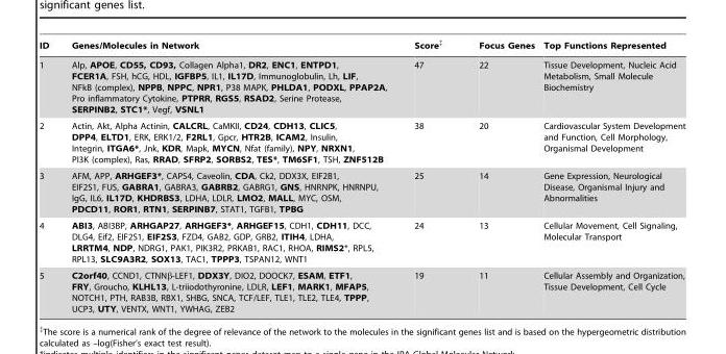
<table><thead><tr><td>ID</td><td>Genes/Molecules in Network</td><td>Score‡</td><td>Focus Genes</td><td>Top Functions Represented</td></tr></thead><tbody><tr><td>1</td><td>Alp, APOE, CD55, CD93, Collagen Alpha1, DR2, ENC1, ENTPD1, FCER1A, FSH, hCG, HDL, IGFBP5, IL1, IL17D, Immunoglobulin, Lh, LIF, NFkB (complex), NPPB, NPPC, NPR1, P38 MAPK, PHLDA1, PODXL, PPAP2A, Pro inflammatory Cytokine, PTPRR, RGS5, RSAD2, Serine Protease, SERPINB2, STC1*, Vegf, VSNL1</td><td>47</td><td>22</td><td>Tissue Development, Nucleic Acid Metabolism, Small Molecule Biochemistry</td></tr><tr><td>2</td><td>Actin, Akt, Alpha Actinin, CALCRL, CaMKII, CD24, CDH13, CLIC5, DPP4, ELTD1, ERK, ERK1/2, F2RL1, Gpcr, HTR2B, ICAM2, Insulin, Integrin, ITGA6*, Jnk, KDR, Mapk, MYCN, Nfat (family), NPY, NRXN1, PI3K (complex), Ras, RRAD, SFRP2, SORBS2, TES*, TM6SF1, TSH, ZNF512B</td><td>38</td><td>20</td><td>Cardiovascular System Development and Function, Cell Morphology, Organismal Development</td></tr><tr><td>3</td><td>AFM, APP, ARHGEF3*, CAPS4, Caveolin, CDA, Ck2, DDX3X, EIF2B1, EIF2S1, FUS, GABRA1, GABRA3, GABRB2, GABRG1, GNS, HNRNPK, HNRNPU, IgG, IL6, IL17D, KHDRBS3, LDHA, LDLR, LMO2, MALL, MYC, OSM, PDCD11, ROR1, RTN1, SERPINB7, STAT1, TGFB1, TPBG</td><td>25</td><td>14</td><td>Gene Expression, Neurological Disease, Organismal Injury and Abnormalities</td></tr><tr><td>4</td><td>ABI3, ABI3BP, ARHGAP27, ARHGEF3*, ARHGEF15, CDH1, CDH11, DCC, DLG4, Eif2, EIF2S1, EIF2S3, FZD4, GAB2, GDP, GRB2, ITIH4, LDHA, LRRTM4, NDP, NDRG1, PAK1, PIK3R2, PRKAB1, RAC1, RHOA, RIMS2*, RPL5, RPL13, SLC9A3R2, SOX13, TAC1, TPPP3, TSPAN12, WNT1</td><td>24</td><td>13</td><td>Cellular Movement, Cell Signaling, Molecular Transport</td></tr><tr><td>5</td><td>C2orf40, CCND1, CTNNβ-LEF1, DDX3Y, DIO2, DOOCK7, ESAM, ETF1, FRY, Groucho, KLHL13, L-triiodothyronine, LDLR, LEF1, MARK1, MFAP5, NOTCH1, PTH, RAB3B, RBX1, SHBG, SNCA, TCF/LEF, TLE1, TLE2, TLE4, TPPP, UCP3, UTY, VENTX, WNT1, YWHAG, ZEB2</td><td>19</td><td>11</td><td>Cellular Assembly and Organization, Tissue Development, Cell Cycle</td></tr></tbody></table>